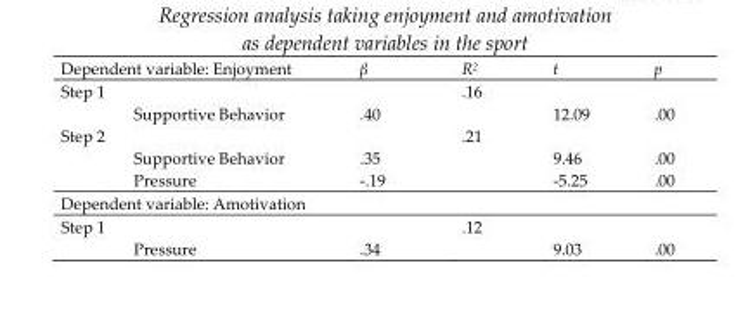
<table><tbody><tr><td>Dependent variable: Enjoyment</td><td>β</td><td>R<sup>2</sup></td><td>t</td><td>p</td></tr><tr><td>Step 1</td><td></td><td>.16</td><td></td><td></td></tr><tr><td>Supportive Behavior</td><td>.40</td><td></td><td>12.09</td><td>.00</td></tr><tr><td>Step 2</td><td></td><td>.21</td><td></td><td></td></tr><tr><td>Supportive Behavior</td><td>.35</td><td></td><td>9.46</td><td>.00</td></tr><tr><td>Pressure</td><td>-.19</td><td></td><td>-5.25</td><td>.00</td></tr><tr><td colspan="5">Dependent variable: Amotivation</td></tr><tr><td>Step 1</td><td></td><td>.12</td><td></td><td></td></tr><tr><td>Pressure</td><td>.34</td><td></td><td>9.03</td><td>.00</td></tr></tbody></table>